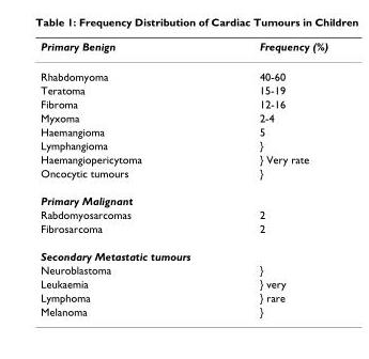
<table><thead><tr><td>Primary Benign</td><td>Frequency (%)</td></tr></thead><tbody><tr><td>Rhabdomyoma</td><td>40-60</td></tr><tr><td>Teratoma</td><td>15-19</td></tr><tr><td>Fibroma</td><td>12-16</td></tr><tr><td>Myxoma</td><td>2-4</td></tr><tr><td>Haemangioma</td><td>5</td></tr><tr><td>Lymphangioma</td><td>}</td></tr><tr><td>Haemangiopericytoma</td><td>} Very rate</td></tr><tr><td>Oncocytic tumours</td><td>}</td></tr><tr><td colspan="2">Primary Malignant</td></tr><tr><td>Rabdomyosarcomas</td><td>2</td></tr><tr><td>Fibrosarcoma</td><td>2</td></tr><tr><td colspan="2">Secondary Metastatic tumours</td></tr><tr><td>Neuroblastoma</td><td>}</td></tr><tr><td>Leukaemia</td><td>} very</td></tr><tr><td>Lymphoma</td><td>} rare</td></tr><tr><td>Melanoma</td><td>}</td></tr></tbody></table>